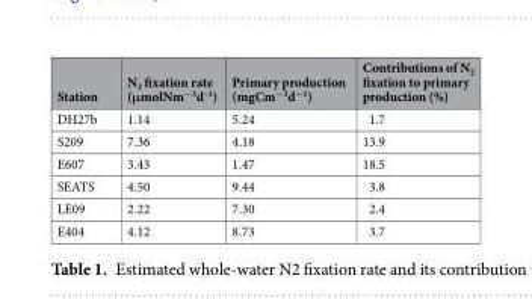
<table><thead><tr><td>Station</td><td>N<sub>2</sub> fixation rate (μmolNm<sup>−3</sup>d<sup>–1</sup>)</td><td>Primary production (mgCm<sup>−3</sup>d<sup>−1</sup>)</td><td>Contributions of N<sub>2</sub> fixation to primary production (%)</td></tr></thead><tbody><tr><td>DH27b</td><td>1.14</td><td>5.24</td><td>1.7</td></tr><tr><td>S209</td><td>7.36</td><td>4.18</td><td>13.9</td></tr><tr><td>E607</td><td>3.43</td><td>1.47</td><td>18.5</td></tr><tr><td>SEATS</td><td>4.50</td><td>9.44</td><td>3.8</td></tr><tr><td>LE09</td><td>2.22</td><td>7.30</td><td>2.4</td></tr><tr><td>E404</td><td>4.12</td><td>8.73</td><td>3.7</td></tr></tbody></table>